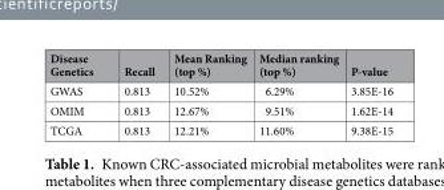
<table><thead><tr><td>Disease Genetics</td><td>Recall</td><td>Mean Ranking (top %)</td><td>Median ranking (top %)</td><td>P-value</td></tr></thead><tbody><tr><td>GWAS</td><td>0.813</td><td>10.52%</td><td>6.29%</td><td>3.85E-16</td></tr><tr><td>OMIM</td><td>0.813</td><td>12.67%</td><td>9.51%</td><td>1.62E-14</td></tr><tr><td>TCGA</td><td>0.813</td><td>12.21%</td><td>11.60%</td><td>9.38E-15</td></tr></tbody></table>